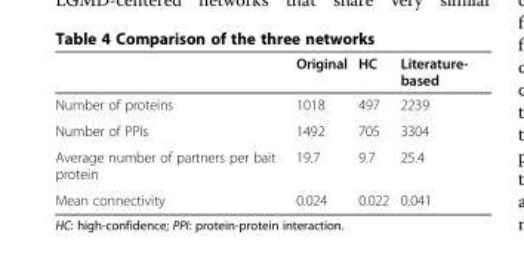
<table><thead><tr><td></td><td>Original</td><td>HC</td><td>Literature- based</td></tr></thead><tbody><tr><td>Number of proteins</td><td>1018</td><td>497</td><td>2239</td></tr><tr><td>Number of PPIs</td><td>1492</td><td>705</td><td>3304</td></tr><tr><td>Average number of partners per bait protein</td><td>19.7</td><td>9.7</td><td>25.4</td></tr><tr><td>Mean connectivity</td><td>0.024</td><td>0.022</td><td>0.041</td></tr></tbody></table>